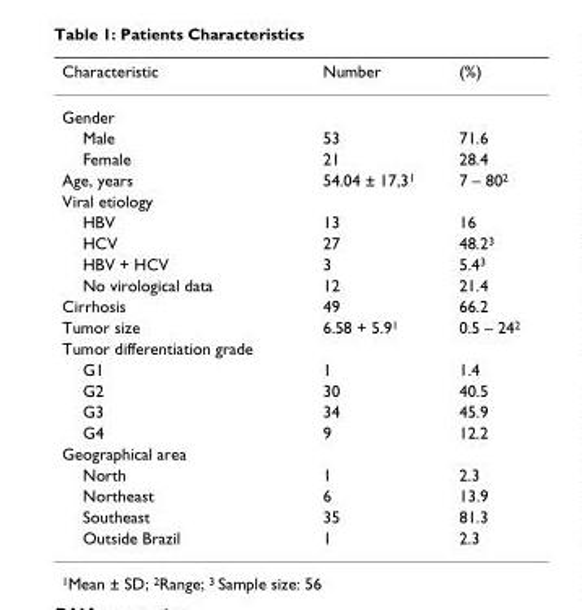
<table><thead><tr><td>Characteristic</td><td>Number</td><td>(%)</td></tr></thead><tbody><tr><td colspan="3">Gender</td></tr><tr><td>Male</td><td>53</td><td>71.6</td></tr><tr><td>Female</td><td>21</td><td>28.4</td></tr><tr><td>Age, years</td><td>54.04 ± 17,3<sup>1</sup></td><td>7 – 80<sup>2</sup></td></tr><tr><td colspan="3">Viral etiology</td></tr><tr><td>HBV</td><td>13</td><td>16</td></tr><tr><td>HCV</td><td>27</td><td>48.2<sup>3</sup></td></tr><tr><td>HBV + HCV</td><td>3</td><td>5.4<sup>3</sup></td></tr><tr><td>No virological data</td><td>12</td><td>21.4</td></tr><tr><td>Cirrhosis</td><td>49</td><td>66.2</td></tr><tr><td>Tumor size</td><td>6.58 + 5.9<sup>1</sup></td><td>0.5 – 24<sup>2</sup></td></tr><tr><td colspan="3">Tumor differentiation grade</td></tr><tr><td>G1</td><td>1</td><td>1.4</td></tr><tr><td>G2</td><td>30</td><td>40.5</td></tr><tr><td>G3</td><td>34</td><td>45.9</td></tr><tr><td>G4</td><td>9</td><td>12.2</td></tr><tr><td colspan="3">Geographical area</td></tr><tr><td>North</td><td>1</td><td>2.3</td></tr><tr><td>Northeast</td><td>6</td><td>13.9</td></tr><tr><td>Southeast</td><td>35</td><td>81.3</td></tr><tr><td>Outside Brazil</td><td>1</td><td>2.3</td></tr></tbody></table>